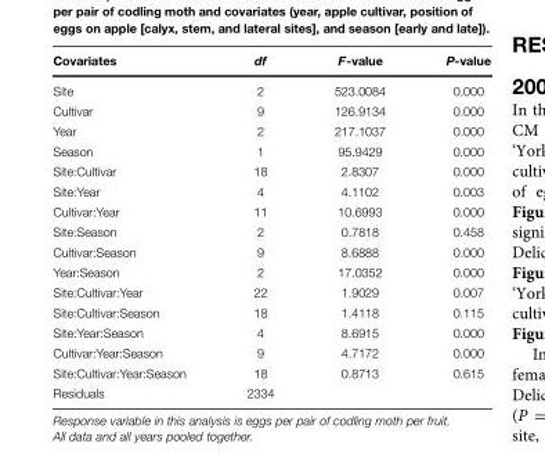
<table><thead><tr><td>Covariates</td><td>df</td><td>F-value</td><td>P-value</td></tr></thead><tbody><tr><td>Site</td><td>2</td><td>523.0084</td><td>0.000</td></tr><tr><td>Cultivar</td><td>9</td><td>126.9134</td><td>0.000</td></tr><tr><td>Year</td><td>2</td><td>217.1037</td><td>0.000</td></tr><tr><td>Season</td><td>1</td><td>95.9429</td><td>0.000</td></tr><tr><td>Site:Cultivar</td><td>18</td><td>2.8307</td><td>0.000</td></tr><tr><td>Site:Year</td><td>4</td><td>4.1102</td><td>0.003</td></tr><tr><td>Cultivar:Year</td><td>11</td><td>10.6993</td><td>0.000</td></tr><tr><td>Site:Season</td><td>2</td><td>0.7818</td><td>0.458</td></tr><tr><td>Cultivar:Season</td><td>9</td><td>8.6888</td><td>0.000</td></tr><tr><td>Year:Season</td><td>2</td><td>17.0352</td><td>0.000</td></tr><tr><td>Site:Cultivar:Year</td><td>22</td><td>1.9029</td><td>0.007</td></tr><tr><td>Site:Cultivar:Season</td><td>18</td><td>1.4118</td><td>0.115</td></tr><tr><td>Site:Year:Season</td><td>4</td><td>8.6915</td><td>0.000</td></tr><tr><td>Cultivar:Year:Season</td><td>9</td><td>4.7172</td><td>0.000</td></tr><tr><td>Site:Cultivar:Year:Season</td><td>18</td><td>0.8713</td><td>0.615</td></tr><tr><td>Residuals</td><td>2334</td><td></td><td></td></tr></tbody></table>